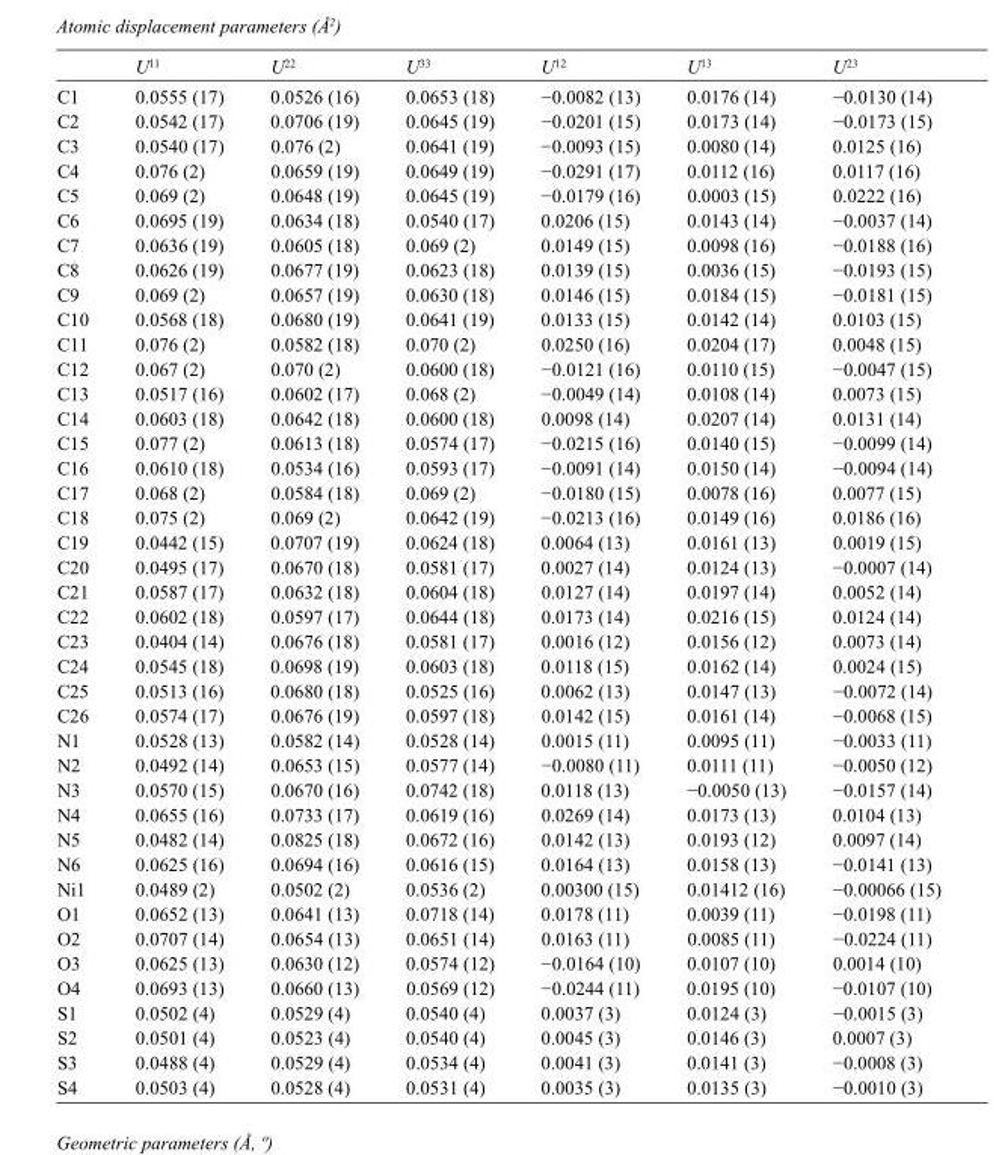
<table><thead><tr><td></td><td>U<sup>11</sup></td><td>U<sup>22</sup></td><td>U<sup>33</sup></td><td>U<sup>12</sup></td><td>U<sup>13</sup></td><td>U<sup>23</sup></td></tr></thead><tbody><tr><td>C1</td><td>0.0555 (17)</td><td>0.0526 (16)</td><td>0.0653 (18)</td><td>−0.0082 (13)</td><td>0.0176 (14)</td><td>−0.0130 (14)</td></tr><tr><td>C2</td><td>0.0542 (17)</td><td>0.0706 (19)</td><td>0.0645 (19)</td><td>−0.0201 (15)</td><td>0.0173 (14)</td><td>−0.0173 (15)</td></tr><tr><td>C3</td><td>0.0540 (17)</td><td>0.076 (2)</td><td>0.0641 (19)</td><td>−0.0093 (15)</td><td>0.0080 (14)</td><td>0.0125 (16)</td></tr><tr><td>C4</td><td>0.076 (2)</td><td>0.0659 (19)</td><td>0.0649 (19)</td><td>−0.0291 (17)</td><td>0.0112 (16)</td><td>0.0117 (16)</td></tr><tr><td>C5</td><td>0.069 (2)</td><td>0.0648 (19)</td><td>0.0645 (19)</td><td>−0.0179 (16)</td><td>0.0003 (15)</td><td>0.0222 (16)</td></tr><tr><td>C6</td><td>0.0695 (19)</td><td>0.0634 (18)</td><td>0.0540 (17)</td><td>0.0206 (15)</td><td>0.0143 (14)</td><td>−0.0037 (14)</td></tr><tr><td>C7</td><td>0.0636 (19)</td><td>0.0605 (18)</td><td>0.069 (2)</td><td>0.0149 (15)</td><td>0.0098 (16)</td><td>−0.0188 (16)</td></tr><tr><td>C8</td><td>0.0626 (19)</td><td>0.0677 (19)</td><td>0.0623 (18)</td><td>0.0139 (15)</td><td>0.0036 (15)</td><td>−0.0193 (15)</td></tr><tr><td>C9</td><td>0.069 (2)</td><td>0.0657 (19)</td><td>0.0630 (18)</td><td>0.0146 (15)</td><td>0.0184 (15)</td><td>−0.0181 (15)</td></tr><tr><td>C10</td><td>0.0568 (18)</td><td>0.0680 (19)</td><td>0.0641 (19)</td><td>0.0133 (15)</td><td>0.0142 (14)</td><td>0.0103 (15)</td></tr><tr><td>C11</td><td>0.076 (2)</td><td>0.0582 (18)</td><td>0.070 (2)</td><td>0.0250 (16)</td><td>0.0204 (17)</td><td>0.0048 (15)</td></tr><tr><td>C12</td><td>0.067 (2)</td><td>0.070 (2)</td><td>0.0600 (18)</td><td>−0.0121 (16)</td><td>0.0110 (15)</td><td>−0.0047 (15)</td></tr><tr><td>C13</td><td>0.0517 (16)</td><td>0.0602 (17)</td><td>0.068 (2)</td><td>−0.0049 (14)</td><td>0.0108 (14)</td><td>0.0073 (15)</td></tr><tr><td>C14</td><td>0.0603 (18)</td><td>0.0642 (18)</td><td>0.0600 (18)</td><td>0.0098 (14)</td><td>0.0207 (14)</td><td>0.0131 (14)</td></tr><tr><td>C15</td><td>0.077 (2)</td><td>0.0613 (18)</td><td>0.0574 (17)</td><td>−0.0215 (16)</td><td>0.0140 (15)</td><td>−0.0099 (14)</td></tr><tr><td>C16</td><td>0.0610 (18)</td><td>0.0534 (16)</td><td>0.0593 (17)</td><td>−0.0091 (14)</td><td>0.0150 (14)</td><td>−0.0094 (14)</td></tr><tr><td>C17</td><td>0.068 (2)</td><td>0.0584 (18)</td><td>0.069 (2)</td><td>−0.0180 (15)</td><td>0.0078 (16)</td><td>0.0077 (15)</td></tr><tr><td>C18</td><td>0.075 (2)</td><td>0.069 (2)</td><td>0.0642 (19)</td><td>−0.0213 (16)</td><td>0.0149 (16)</td><td>0.0186 (16)</td></tr><tr><td>C19</td><td>0.0442 (15)</td><td>0.0707 (19)</td><td>0.0624 (18)</td><td>0.0064 (13)</td><td>0.0161 (13)</td><td>0.0019 (15)</td></tr><tr><td>C20</td><td>0.0495 (17)</td><td>0.0670 (18)</td><td>0.0581 (17)</td><td>0.0027 (14)</td><td>0.0124 (13)</td><td>−0.0007 (14)</td></tr><tr><td>C21</td><td>0.0587 (17)</td><td>0.0632 (18)</td><td>0.0604 (18)</td><td>0.0127 (14)</td><td>0.0197 (14)</td><td>0.0052 (14)</td></tr><tr><td>C22</td><td>0.0602 (18)</td><td>0.0597 (17)</td><td>0.0644 (18)</td><td>0.0173 (14)</td><td>0.0216 (15)</td><td>0.0124 (14)</td></tr><tr><td>C23</td><td>0.0404 (14)</td><td>0.0676 (18)</td><td>0.0581 (17)</td><td>0.0016 (12)</td><td>0.0156 (12)</td><td>0.0073 (14)</td></tr><tr><td>C24</td><td>0.0545 (18)</td><td>0.0698 (19)</td><td>0.0603 (18)</td><td>0.0118 (15)</td><td>0.0162 (14)</td><td>0.0024 (15)</td></tr><tr><td>C25</td><td>0.0513 (16)</td><td>0.0680 (18)</td><td>0.0525 (16)</td><td>0.0062 (13)</td><td>0.0147 (13)</td><td>−0.0072 (14)</td></tr><tr><td>C26</td><td>0.0574 (17)</td><td>0.0676 (19)</td><td>0.0597 (18)</td><td>0.0142 (15)</td><td>0.0161 (14)</td><td>−0.0068 (15)</td></tr><tr><td>N1</td><td>0.0528 (13)</td><td>0.0582 (14)</td><td>0.0528 (14)</td><td>0.0015 (11)</td><td>0.0095 (11)</td><td>−0.0033 (11)</td></tr><tr><td>N2</td><td>0.0492 (14)</td><td>0.0653 (15)</td><td>0.0577 (14)</td><td>−0.0080 (11)</td><td>0.0111 (11)</td><td>−0.0050 (12)</td></tr><tr><td>N3</td><td>0.0570 (15)</td><td>0.0670 (16)</td><td>0.0742 (18)</td><td>0.0118 (13)</td><td>−0.0050 (13)</td><td>−0.0157 (14)</td></tr><tr><td>N4</td><td>0.0655 (16)</td><td>0.0733 (17)</td><td>0.0619 (16)</td><td>0.0269 (14)</td><td>0.0173 (13)</td><td>0.0104 (13)</td></tr><tr><td>N5</td><td>0.0482 (14)</td><td>0.0825 (18)</td><td>0.0672 (16)</td><td>0.0142 (13)</td><td>0.0193 (12)</td><td>0.0097 (14)</td></tr><tr><td>N6</td><td>0.0625 (16)</td><td>0.0694 (16)</td><td>0.0616 (15)</td><td>0.0164 (13)</td><td>0.0158 (13)</td><td>−0.0141 (13)</td></tr><tr><td>Ni1</td><td>0.0489 (2)</td><td>0.0502 (2)</td><td>0.0536 (2)</td><td>0.00300 (15)</td><td>0.01412 (16)</td><td>−0.00066 (15)</td></tr><tr><td>O1</td><td>0.0652 (13)</td><td>0.0641 (13)</td><td>0.0718 (14)</td><td>0.0178 (11)</td><td>0.0039 (11)</td><td>−0.0198 (11)</td></tr><tr><td>O2</td><td>0.0707 (14)</td><td>0.0654 (13)</td><td>0.0651 (14)</td><td>0.0163 (11)</td><td>0.0085 (11)</td><td>−0.0224 (11)</td></tr><tr><td>O3</td><td>0.0625 (13)</td><td>0.0630 (12)</td><td>0.0574 (12)</td><td>−0.0164 (10)</td><td>0.0107 (10)</td><td>0.0014 (10)</td></tr><tr><td>O4</td><td>0.0693 (13)</td><td>0.0660 (13)</td><td>0.0569 (12)</td><td>−0.0244 (11)</td><td>0.0195 (10)</td><td>−0.0107 (10)</td></tr><tr><td>S1</td><td>0.0502 (4)</td><td>0.0529 (4)</td><td>0.0540 (4)</td><td>0.0037 (3)</td><td>0.0124 (3)</td><td>−0.0015 (3)</td></tr><tr><td>S2</td><td>0.0501 (4)</td><td>0.0523 (4)</td><td>0.0540 (4)</td><td>0.0045 (3)</td><td>0.0146 (3)</td><td>0.0007 (3)</td></tr><tr><td>S3</td><td>0.0488 (4)</td><td>0.0529 (4)</td><td>0.0534 (4)</td><td>0.0041 (3)</td><td>0.0141 (3)</td><td>−0.0008 (3)</td></tr><tr><td>S4</td><td>0.0503 (4)</td><td>0.0528 (4)</td><td>0.0531 (4)</td><td>0.0035 (3)</td><td>0.0135 (3)</td><td>−0.0010 (3)</td></tr></tbody></table>